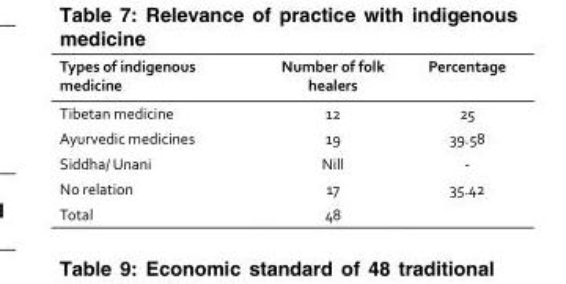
<table><thead><tr><td>Types of indigenous medicine</td><td>Number of folk healers</td><td>Percentage</td></tr></thead><tbody><tr><td>Tibetan medicine</td><td>12</td><td>25</td></tr><tr><td>Ayurvedic medicines</td><td>19</td><td>39.58</td></tr><tr><td>Siddha/ Unani</td><td>Nill</td><td>-</td></tr><tr><td>No relation</td><td>17</td><td>35.42</td></tr><tr><td>Total</td><td>48</td><td></td></tr></tbody></table>